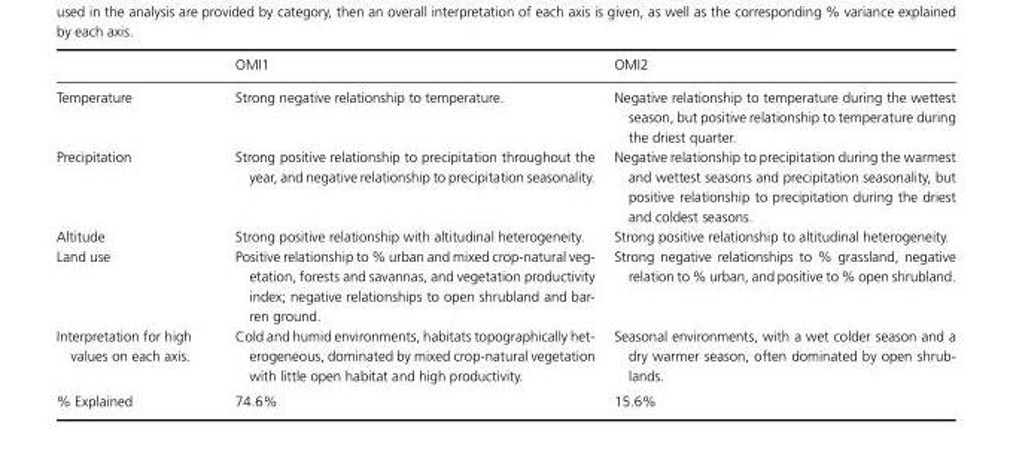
<table><thead><tr><td></td><td>OMI1</td><td>OMI2</td></tr></thead><tbody><tr><td>Temperature</td><td>Strong negative relationship to temperature.</td><td>Negative relationship to temperature during the wettest season, but positive relationship to temperature during the driest quarter.</td></tr><tr><td>Precipitation</td><td>Strong positive relationship to precipitation throughout the year, and negative relationship to precipitation seasonality.</td><td>Negative relationship to precipitation during the warmest and wettest seasons and precipitation seasonality, but positive relationship to precipitation during the driest and coldest seasons.</td></tr><tr><td>Altitude</td><td>Strong positive relationship with altitudinal heterogeneity.</td><td>Strong positive relationship to altitudinal heterogeneity.</td></tr><tr><td>Land use</td><td>Positive relationship to % urban and mixed crop-natural veg- etation, forests and savannas, and vegetation productivity index; negative relationships to open shrubland and bar- ren ground.</td><td>Strong negative relationships to % grassland, negative relation to % urban, and positive to % open shrubland.</td></tr><tr><td>Interpretation for high values on each axis.</td><td>Cold and humid environments, habitats topographically het- erogeneous, dominated by mixed crop-natural vegetation with little open habitat and high productivity.</td><td>Seasonal environments, with a wet colder season and a dry warmer season, often dominated by open shrub- lands.</td></tr><tr><td>% Explained</td><td>74.6%</td><td>15.6%</td></tr></tbody></table>